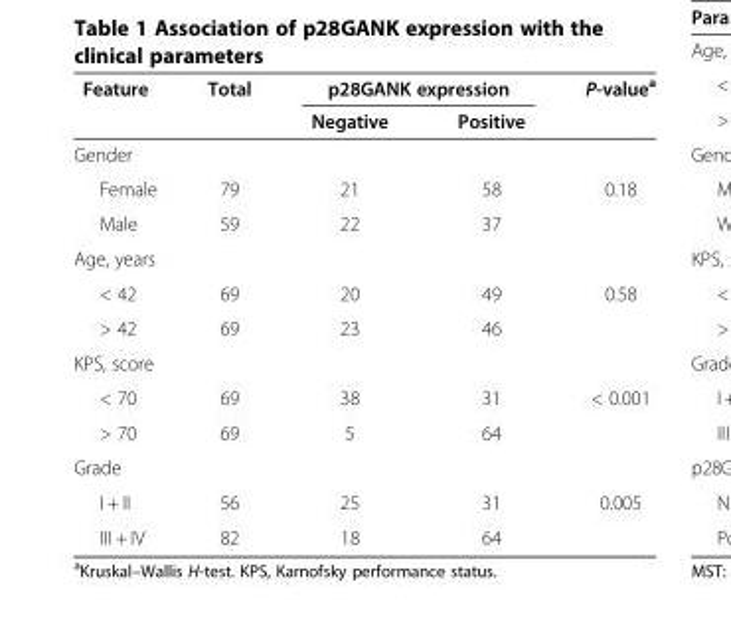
<table><thead><tr><td rowspan="2">Feature</td><td rowspan="2">Total</td><td colspan="2">p28GANK expression</td><td rowspan="2">P-value<sup>a</sup></td></tr><tr><td>Negative</td><td>Positive</td></tr></thead><tbody><tr><td colspan="5">Gender</td></tr><tr><td>Female</td><td>79</td><td>21</td><td>58</td><td>0.18</td></tr><tr><td>Male</td><td>59</td><td>22</td><td>37</td><td></td></tr><tr><td colspan="5">Age, years</td></tr><tr><td>&lt; 42</td><td>69</td><td>20</td><td>49</td><td>0.58</td></tr><tr><td>&gt; 42</td><td>69</td><td>23</td><td>46</td><td></td></tr><tr><td colspan="5">KPS, score</td></tr><tr><td>&lt; 70</td><td>69</td><td>38</td><td>31</td><td>&lt; 0.001</td></tr><tr><td>&gt; 70</td><td>69</td><td>5</td><td>64</td><td></td></tr><tr><td colspan="5">Grade</td></tr><tr><td>I + II</td><td>56</td><td>25</td><td>31</td><td>0.005</td></tr><tr><td>III + IV</td><td>82</td><td>18</td><td>64</td><td></td></tr></tbody></table>